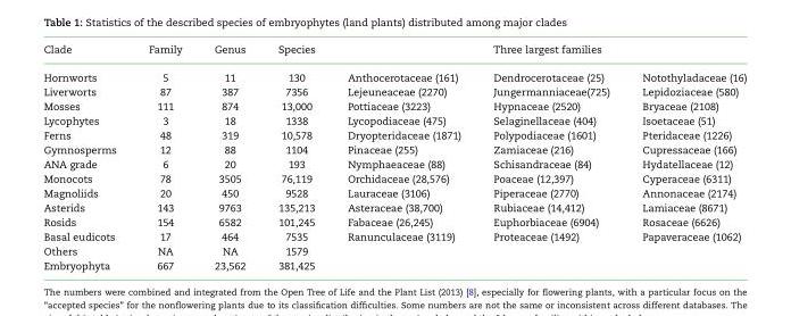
<table><thead><tr><td rowspan="2">Clade Hornworts</td><td rowspan="2">Family 5</td><td rowspan="2">Genus 11</td><td rowspan="2">Species 130</td><td colspan="3">Three largest families</td></tr><tr><td>Anthocerotaceae (161)</td><td>Dendrocerotaceae (25)</td><td>Notothyladaceae (16)</td></tr></thead><tbody><tr><td>Liverworts</td><td>87</td><td>387</td><td>7356</td><td>Lejeuneaceae (2270)</td><td>Jungermanniaceae(725)</td><td>Lepidoziaceae (580)</td></tr><tr><td>Mosses</td><td>111</td><td>874</td><td>13,000</td><td>Pottiaceae (3223)</td><td>Hypnaceae (2520)</td><td>Bryaceae (2108)</td></tr><tr><td>Lycophytes</td><td>3</td><td>18</td><td>1338</td><td>Lycopodiaceae (475)</td><td>Selaginellaceae (404)</td><td>Isoetaceae (51)</td></tr><tr><td>Ferns</td><td>48</td><td>319</td><td>10,578</td><td>Dryopteridaceae (1871)</td><td>Polypodiaceae (1601)</td><td>Pteridaceae (1226)</td></tr><tr><td>Gymnosperms</td><td>12</td><td>88</td><td>1104</td><td>Pinaceae (255)</td><td>Zamiaceae (216)</td><td>Cupressaceae (166)</td></tr><tr><td>ANA grade</td><td>6</td><td>20</td><td>193</td><td>Nymphaeaceae (88)</td><td>Schisandraceae (84)</td><td>Hydatellaceae (12)</td></tr><tr><td>Monocots</td><td>78</td><td>3505</td><td>76,119</td><td>Orchidaceae (28,576)</td><td>Poaceae (12,397)</td><td>Cyperaceae (6311)</td></tr><tr><td>Magnoliids</td><td>20</td><td>450</td><td>9528</td><td>Lauraceae (3106)</td><td>Piperaceae (2770)</td><td>Annonaceae (2174)</td></tr><tr><td>Asterids</td><td>143</td><td>9763</td><td>135,213</td><td>Asteraceae (38,700)</td><td>Rubiaceae (14,412)</td><td>Lamiaceae (8671)</td></tr><tr><td>Rosids</td><td>154</td><td>6582</td><td>101,245</td><td>Fabaceae (26,245)</td><td>Euphorbiaceae (6904)</td><td>Rosaceae (6626)</td></tr><tr><td>Basal eudicots</td><td>17</td><td>464</td><td>7535</td><td>Ranunculaceae (3119)</td><td>Proteaceae (1492)</td><td>Papaveraceae (1062)</td></tr><tr><td>Others</td><td>NA</td><td>NA</td><td>1579</td><td></td><td></td><td></td></tr><tr><td>Embryophyta</td><td>667</td><td>23,562</td><td>381,425</td><td></td><td></td><td></td></tr></tbody></table>